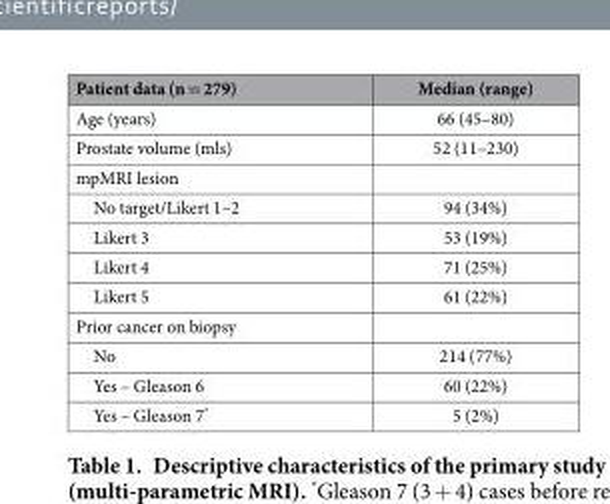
<table><thead><tr><td>Patient data (n = 279)</td><td>Median (range)</td></tr></thead><tbody><tr><td>Age (years)</td><td>66 (45–80)</td></tr><tr><td>Prostate volume (mls)</td><td>52 (11–230)</td></tr><tr><td colspan="2">mpMRI lesion</td></tr><tr><td>No target/Likert 1–2</td><td>94 (34%)</td></tr><tr><td>Likert 3</td><td>53 (19%)</td></tr><tr><td>Likert 4</td><td>71 (25%)</td></tr><tr><td>Likert 5</td><td>61 (22%)</td></tr><tr><td colspan="2">Prior cancer on biopsy</td></tr><tr><td>No</td><td>214 (77%)</td></tr><tr><td>Yes – Gleason 6</td><td>60 (22%)</td></tr><tr><td>Yes – Gleason 7*</td><td>5 (2%)</td></tr></tbody></table>